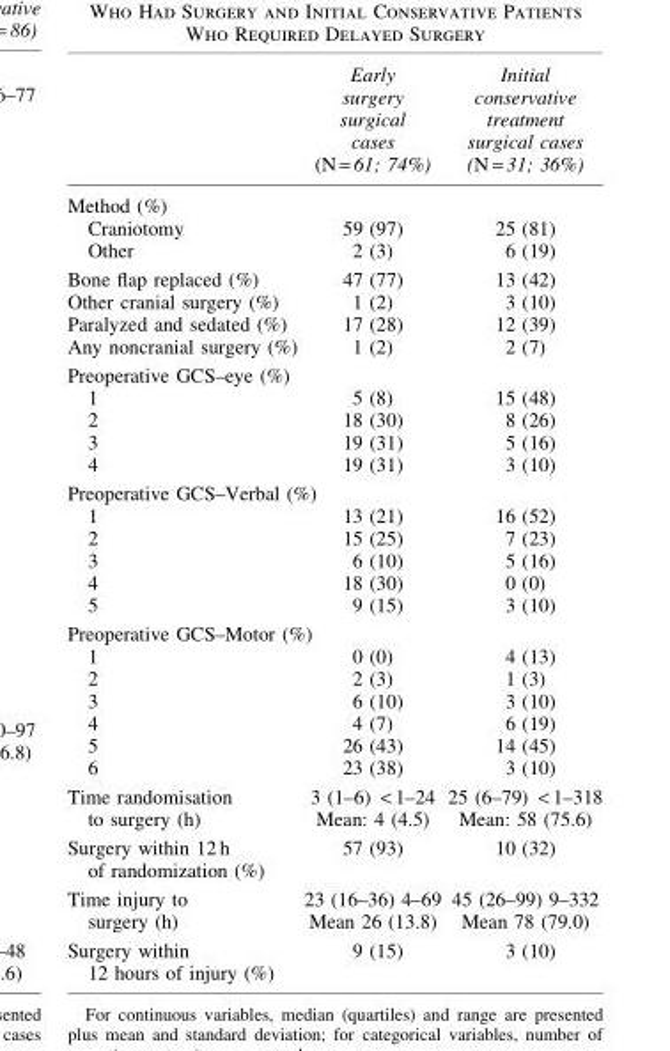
<table><thead><tr><td></td><td>Early surgery surgical cases (N = 61; 74%)</td><td>Initial conservative treatment surgical cases (N = 31; 36%)</td></tr></thead><tbody><tr><td colspan="3">Method (%)</td></tr><tr><td>Craniotomy</td><td>59 (97)</td><td>25 (81)</td></tr><tr><td>Other</td><td>2 (3)</td><td>6 (19)</td></tr><tr><td>Bone flap replaced (%)</td><td>47 (77)</td><td>13 (42)</td></tr><tr><td>Other cranial surgery (%)</td><td>1 (2)</td><td>3 (10)</td></tr><tr><td>Paralyzed and sedated (%)</td><td>17 (28)</td><td>12 (39)</td></tr><tr><td>Any noncranial surgery (%)</td><td>1 (2)</td><td>2 (7)</td></tr><tr><td colspan="3">Preoperative GCS–eye (%)</td></tr><tr><td>1</td><td>5 (8)</td><td>15 (48)</td></tr><tr><td>2</td><td>18 (30)</td><td>8 (26)</td></tr><tr><td>3</td><td>19 (31)</td><td>5 (16)</td></tr><tr><td>4</td><td>19 (31)</td><td>3 (10)</td></tr><tr><td colspan="3">Preoperative GCS–Verbal (%)</td></tr><tr><td>1</td><td>13 (21)</td><td>16 (52)</td></tr><tr><td>2</td><td>15 (25)</td><td>7 (23)</td></tr><tr><td>3</td><td>6 (10)</td><td>5 (16)</td></tr><tr><td>4</td><td>18 (30)</td><td>0 (0)</td></tr><tr><td>5</td><td>9 (15)</td><td>3 (10)</td></tr><tr><td colspan="3">Preoperative GCS–Motor (%)</td></tr><tr><td>1</td><td>0 (0)</td><td>4 (13)</td></tr><tr><td>2</td><td>2 (3)</td><td>1 (3)</td></tr><tr><td>3</td><td>6 (10)</td><td>3 (10)</td></tr><tr><td>4</td><td>4 (7)</td><td>6 (19)</td></tr><tr><td>5</td><td>26 (43)</td><td>14 (45)</td></tr><tr><td>6</td><td>23 (38)</td><td>3 (10)</td></tr><tr><td>Time randomisation to surgery (h)</td><td>3 (1–6) &lt; 1–24 Mean: 4 (4.5)</td><td>25 (6–79) &lt; 1–318 Mean: 58 (75.6)</td></tr><tr><td>Surgery within 12 h of randomization (%)</td><td>57 (93)</td><td>10 (32)</td></tr><tr><td>Time injury to surgery (h)</td><td>23 (16–36) 4–69 Mean 26 (13.8)</td><td>45 (26–99) 9–332 Mean 78 (79.0)</td></tr><tr><td>Surgery within 12 hours of injury (%)</td><td>9 (15)</td><td>3 (10)</td></tr></tbody></table>